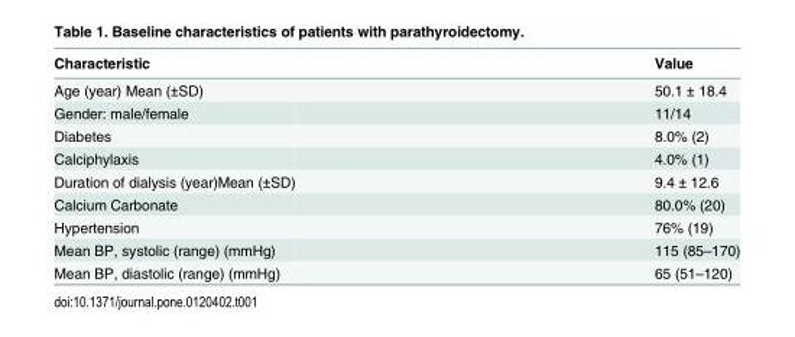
<table><thead><tr><td>Characteristic</td><td>Value</td></tr></thead><tbody><tr><td>Age (year) Mean (±SD)</td><td>50.1 ± 18.4</td></tr><tr><td>Gender: male/female</td><td>11/14</td></tr><tr><td>Diabetes</td><td>8.0% (2)</td></tr><tr><td>Calciphylaxis</td><td>4.0% (1)</td></tr><tr><td>Duration of dialysis (year)Mean (±SD)</td><td>9.4 ± 12.6</td></tr><tr><td>Calcium Carbonate</td><td>80.0% (20)</td></tr><tr><td>Hypertension</td><td>76% (19)</td></tr><tr><td>Mean BP, systolic (range) (mmHg)</td><td>115 (85–170)</td></tr><tr><td>Mean BP, diastolic (range) (mmHg)</td><td>65 (51–120)</td></tr></tbody></table>